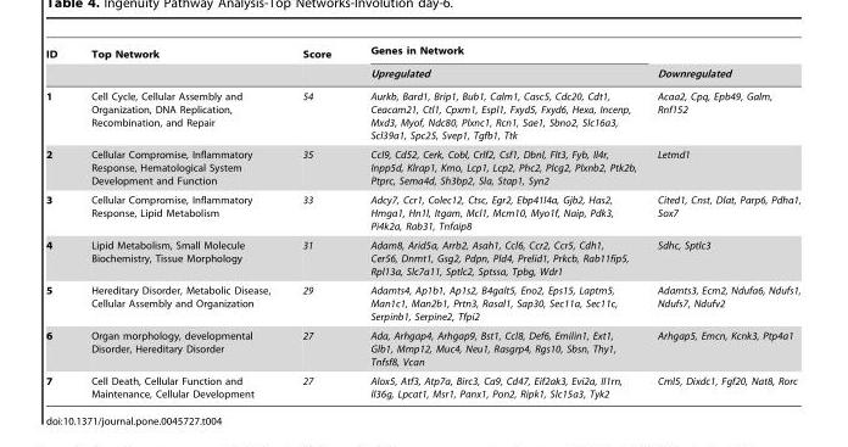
<table><thead><tr><td rowspan="2">ID</td><td rowspan="2">Top Network</td><td rowspan="2">Score</td><td rowspan="2">Genes in Network Upregulated</td><td rowspan="2">Downregulated</td></tr><tr></tr></thead><tbody><tr><td>1</td><td>Cell Cycle, Cellular Assembly and Organization, DNA Replication, Recombination, and Repair</td><td>54</td><td>Aurkb, Bard1, Brip1, Bub1, Calm1, Casc5, Cdc20, Cdt1, Ceacam21, Ctl1, Cpxm1, Espl1, Fxyd5, Fxyd6, Hexa, Incenp, Mxd3, Myof, Ndc80, Plxnc1, Rcn1, Sae1, Sbno2, Slc16a3, Scl39a1, Spc25, Svep1, Tgfb1, Ttk</td><td>Acaa2, Cpq, Epb49, Galm, Rnf152</td></tr><tr><td>2</td><td>Cellular Compromise, Inflammatory Response, Hematological System Development and Function</td><td>35</td><td>Ccl9, Cd52, Cerk, Cobl, Crlf2, Csf1, Dbnl, Flt3, Fyb, Il4r, Inpp5d, Klrap1, Kmo, Lcp1, Lcp2, Phc2, Plcg2, Plxnb2, Ptk2b, Ptprc, Sema4d, Sh3bp2, Sla, Stap1, Syn2</td><td>Letmd1</td></tr><tr><td>3</td><td>Cellular Compromise, Inflammatory Response, Lipid Metabolism</td><td>33</td><td>Adcy7, Ccr1, Colec12, Ctsc, Egr2, Ebp41l4a, Gjb2, Has2, Hmga1, Hn1l, Itgam, Mcl1, Mcm10, Myo1f, Naip, Pdk3, Pi4k2a, Rab31, Tnfaip8</td><td>Cited1, Cnst, Dlat, Parp6, Pdha1, Sox7</td></tr><tr><td>4</td><td>Lipid Metabolism, Small Molecule Biochemistry, Tissue Morphology</td><td>31</td><td>Adam8, Arid5a, Arrb2, Asah1, Ccl6, Ccr2, Ccr5, Cdh1, Cer56, Dnmt1, Gsg2, Pdpn, Pld4, Prelid1, Prkcb, Rab11fip5, Rpl13a, Slc7a11, Sptlc2, Sptssa, Tpbg, Wdr1</td><td>Sdhc, Sptlc3</td></tr><tr><td>5</td><td>Hereditary Disorder, Metabolic Disease, Cellular Assembly and Organization</td><td>29</td><td>Adamts4, Ap1b1, Ap1s2, B4galt5, Eno2, Eps15, Laptm5, Man1c1, Man2b1, Prtn3, Rasal1, Sap30, Sec11a, Sec11c, Serpinb1, Serpine2, Tfpi2</td><td>Adamts3, Ecm2, Ndufa6, Ndufs1, Ndufs7, Ndufv2</td></tr><tr><td>6</td><td>Organ morphology, developmental Disorder, Hereditary Disorder</td><td>27</td><td>Ada, Arhgap4, Arhgap9, Bst1, Ccl8, Def6, Emilin1, Ext1, Glb1, Mmp12, Muc4, Neu1, Rasgrp4, Rgs10, Sbsn, Thy1, Tnfsf8, Vcan</td><td>Arhgap5, Emcn, Kcnk3, Ptp4a1</td></tr><tr><td>7</td><td>Cell Death, Cellular Function and Maintenance, Cellular Development</td><td>27</td><td>Alox5, Atf3, Atp7a, Birc3, Ca9, Cd47, Eif2ak3, Evi2a, Il1rn, Il36g, Lpcat1, Msr1, Panx1, Pon2, Ripk1, Slc15a3, Tyk2</td><td>Cml5, Dixdc1, Fgf20, Nat8, Rorc</td></tr></tbody></table>